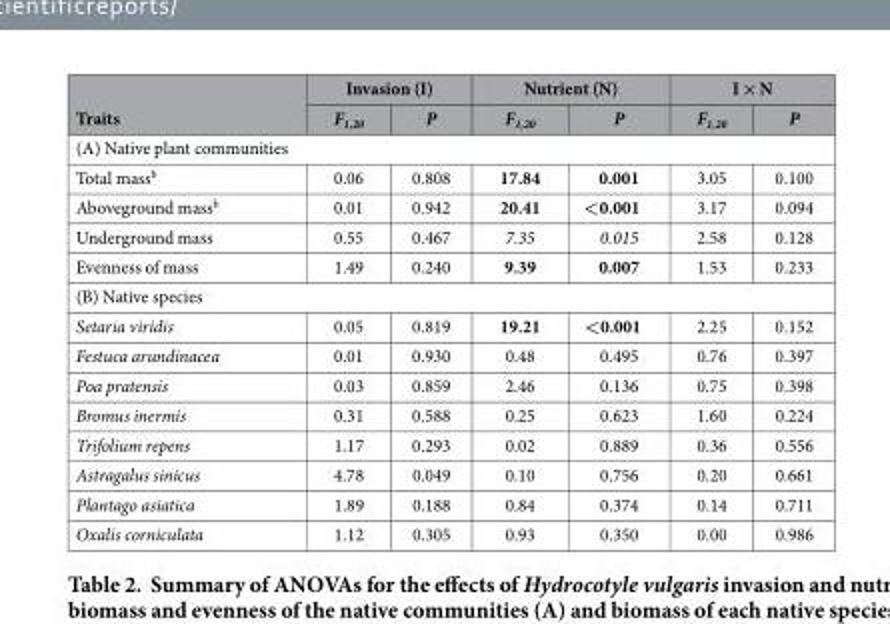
<table><thead><tr><td rowspan="2">Traits</td><td colspan="2">Invasion (I)</td><td colspan="2">Nutrient (N)</td><td colspan="2">I × N</td></tr><tr><td>F<sub>1,20</sub></td><td>P</td><td>F<sub>1,20</sub></td><td>P</td><td>F<sub>1,20</sub></td><td>P</td></tr></thead><tbody><tr><td colspan="7">(A) Native plant communities</td></tr><tr><td>Total mass<sup>b</sup></td><td>0.06</td><td>0.808</td><td>17.84</td><td>0.001</td><td>3.05</td><td>0.100</td></tr><tr><td>Aboveground mass<sup>b</sup></td><td>0.01</td><td>0.942</td><td>20.41</td><td>&lt;0.001</td><td>3.17</td><td>0.094</td></tr><tr><td>Underground mass</td><td>0.55</td><td>0.467</td><td>7.35</td><td>0.015</td><td>2.58</td><td>0.128</td></tr><tr><td>Evenness of mass</td><td>1.49</td><td>0.240</td><td>9.39</td><td>0.007</td><td>1.53</td><td>0.233</td></tr><tr><td colspan="7">(B) Native species</td></tr><tr><td>Setaria viridis</td><td>0.05</td><td>0.819</td><td>19.21</td><td>&lt;0.001</td><td>2.25</td><td>0.152</td></tr><tr><td>Festuca arundinacea</td><td>0.01</td><td>0.930</td><td>0.48</td><td>0.495</td><td>0.76</td><td>0.397</td></tr><tr><td>Poa pratensis</td><td>0.03</td><td>0.859</td><td>2.46</td><td>0.136</td><td>0.75</td><td>0.398</td></tr><tr><td>Bromus inermis</td><td>0.31</td><td>0.588</td><td>0.25</td><td>0.623</td><td>1.60</td><td>0.224</td></tr><tr><td>Trifolium repens</td><td>1.17</td><td>0.293</td><td>0.02</td><td>0.889</td><td>0.36</td><td>0.556</td></tr><tr><td>Astragalus sinicus</td><td>4.78</td><td>0.049</td><td>0.10</td><td>0.756</td><td>0.20</td><td>0.661</td></tr><tr><td>Plantago asiatica</td><td>1.89</td><td>0.188</td><td>0.84</td><td>0.374</td><td>0.14</td><td>0.711</td></tr><tr><td>Oxalis corniculata</td><td>1.12</td><td>0.305</td><td>0.93</td><td>0.350</td><td>0.00</td><td>0.986</td></tr></tbody></table>